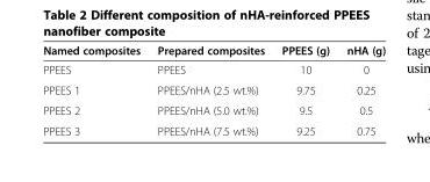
<table><thead><tr><td>Named composites</td><td>Prepared composites</td><td>PPEES (g)</td><td>nHA (g)</td></tr></thead><tbody><tr><td>PPEES</td><td>PPEES</td><td>10</td><td>0</td></tr><tr><td>PPEES 1</td><td>PPEES/nHA (2.5 wt.%)</td><td>9.75</td><td>0.25</td></tr><tr><td>PPEES 2</td><td>PPEES/nHA (5.0 wt.%)</td><td>9.5</td><td>0.5</td></tr><tr><td>PPEES 3</td><td>PPEES/nHA (7.5 wt.%)</td><td>9.25</td><td>0.75</td></tr></tbody></table>